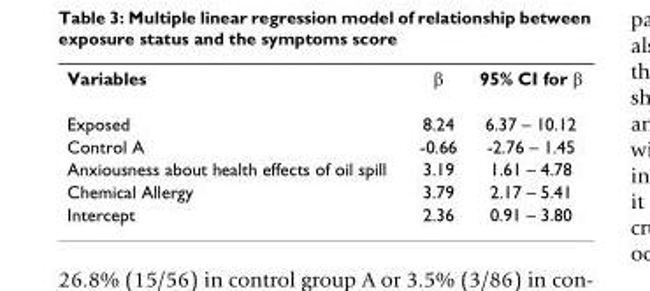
<table><tbody><tr><td>Variables</td><td>β</td><td>95% CI for β</td></tr><tr><td>Exposed</td><td>8.24</td><td>6.37 – 10.12</td></tr><tr><td>Control A</td><td>-0.66</td><td>-2.76 – 1.45</td></tr><tr><td>Anxiousness about health effects of oil spill</td><td>3.19</td><td>1.61 – 4.78</td></tr><tr><td>Chemical Allergy</td><td>3.79</td><td>2.17 – 5.41</td></tr><tr><td>Intercept</td><td>2.36</td><td>0.91 – 3.80</td></tr></tbody></table>